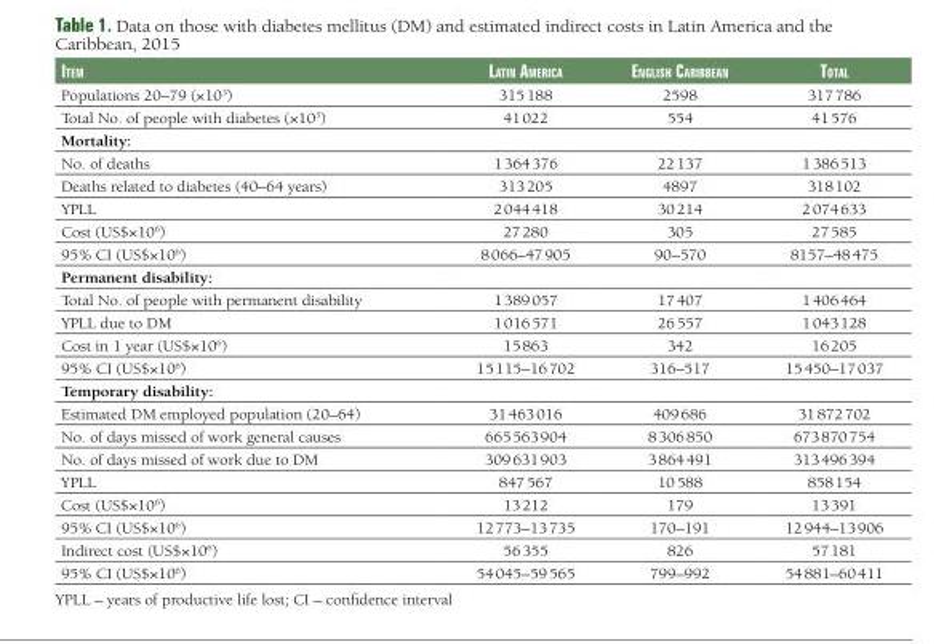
<table><thead><tr><td>Item</td><td>LatIn amerIca</td><td>engLIsh carIbbean</td><td>totaL</td></tr></thead><tbody><tr><td>Populations 20–79 (×10<sup>3</sup>)</td><td>315 188</td><td>2598</td><td>317 786</td></tr><tr><td>Total No. of people with diabetes (×10<sup>3</sup>)</td><td>41 022</td><td>554</td><td>41 576</td></tr><tr><td colspan="4">Mortality:</td></tr><tr><td>No. of deaths</td><td>1 364 376</td><td>22 137</td><td>1 386 513</td></tr><tr><td>Deaths related to diabetes (40–64 years)</td><td>313 205</td><td>4897</td><td>318 102</td></tr><tr><td>YPLL</td><td>2 044 418</td><td>30 214</td><td>2 074 633</td></tr><tr><td>Cost (US$×10<sup>6</sup>)</td><td>27 280</td><td>305</td><td>27 585</td></tr><tr><td>95% CI (US$×10<sup>6</sup>)</td><td>8 066–47 905</td><td>90–570</td><td>8157–48 475</td></tr><tr><td colspan="4">Permanent disability:</td></tr><tr><td>Total No. of people with permanent disability</td><td>1 389 057</td><td>17 407</td><td>1 406 464</td></tr><tr><td>YPLL due to DM</td><td>1 016 571</td><td>26 557</td><td>1 043 128</td></tr><tr><td>Cost in 1 year (US$×10<sup>6</sup>)</td><td>15 863</td><td>342</td><td>16 205</td></tr><tr><td>95% CI (US$×10<sup>6</sup>)</td><td>15 115–16 702</td><td>316–517</td><td>15 450–17 037</td></tr><tr><td colspan="4">Temporary disability:</td></tr><tr><td>Estimated DM employed population (20–64)</td><td>31 463 016</td><td>409 686</td><td>31 872 702</td></tr><tr><td>No. of days missed of work general causes</td><td>665 563 904</td><td>8 306 850</td><td>673 870 754</td></tr><tr><td>No. of days missed of work due to DM</td><td>309 631 903</td><td>3 864 491</td><td>313 496 394</td></tr><tr><td>YPLL</td><td>847 567</td><td>10 588</td><td>858 154</td></tr><tr><td>Cost (US$×10<sup>6</sup>)</td><td>13 212</td><td>179</td><td>13 391</td></tr><tr><td>95% CI (US$×10<sup>6</sup>)</td><td>12 773–13 735</td><td>170–191</td><td>12 944–13 906</td></tr><tr><td>Indirect cost (US$×10<sup>6</sup>)</td><td>56 355</td><td>826</td><td>57 181</td></tr><tr><td>95% CI (US$×10<sup>6</sup>)</td><td>54 045–59 565</td><td>799–992</td><td>54 881–60 411</td></tr></tbody></table>